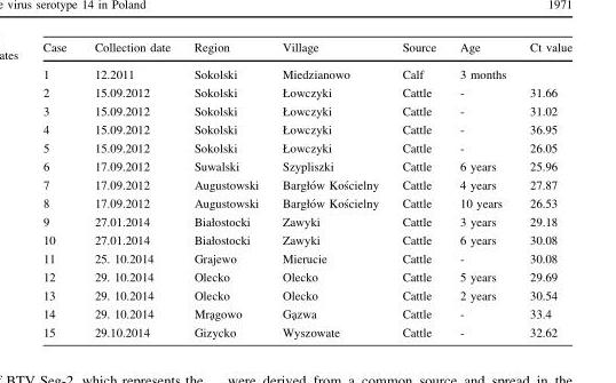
<table><thead><tr><td>Case</td><td>Collection date</td><td>Region</td><td>Village</td><td>Source</td><td>Age</td><td>Ct value</td></tr></thead><tbody><tr><td>1</td><td>12.2011</td><td>Sokolski</td><td>Miedzianowo</td><td>Calf</td><td>3 months</td><td></td></tr><tr><td>2</td><td>15.09.2012</td><td>Sokolski</td><td>Łowczyki</td><td>Cattle</td><td>-</td><td>31.66</td></tr><tr><td>3</td><td>15.09.2012</td><td>Sokolski</td><td>Łowczyki</td><td>Cattle</td><td>-</td><td>31.02</td></tr><tr><td>4</td><td>15.09.2012</td><td>Sokolski</td><td>Łowczyki</td><td>Cattle</td><td>-</td><td>36.95</td></tr><tr><td>5</td><td>15.09.2012</td><td>Sokolski</td><td>Łowczyki</td><td>Cattle</td><td>-</td><td>26.05</td></tr><tr><td>6</td><td>17.09.2012</td><td>Suwalski</td><td>Szypliszki</td><td>Cattle</td><td>6 years</td><td>25.96</td></tr><tr><td>7</td><td>17.09.2012</td><td>Augustowski</td><td>Bargło´w Kos´cielny</td><td>Cattle</td><td>4 years</td><td>27.87</td></tr><tr><td>8</td><td>17.09.2012</td><td>Augustowski</td><td>Bargło´w Kos´cielny</td><td>Cattle</td><td>10 years</td><td>26.53</td></tr><tr><td>9</td><td>27.01.2014</td><td>Białostocki</td><td>Zawyki</td><td>Cattle</td><td>3 years</td><td>29.18</td></tr><tr><td>10</td><td>27.01.2014</td><td>Białostocki</td><td>Zawyki</td><td>Cattle</td><td>6 years</td><td>30.08</td></tr><tr><td>11</td><td>25. 10.2014</td><td>Grajewo</td><td>Mierucie</td><td>Cattle</td><td>-</td><td>30.08</td></tr><tr><td>12</td><td>29. 10.2014</td><td>Olecko</td><td>Olecko</td><td>Cattle</td><td>5 years</td><td>29.69</td></tr><tr><td>13</td><td>29. 10.2014</td><td>Olecko</td><td>Olecko</td><td>Cattle</td><td>2 years</td><td>30.54</td></tr><tr><td>14</td><td>29. 10.2014</td><td>Mra˛gowo</td><td>Ga˛zwa</td><td>Cattle</td><td>-</td><td>33.4</td></tr><tr><td>15</td><td>29.10.2014</td><td>Gizycko</td><td>Wyszowate</td><td>Cattle</td><td>-</td><td>32.62</td></tr></tbody></table>